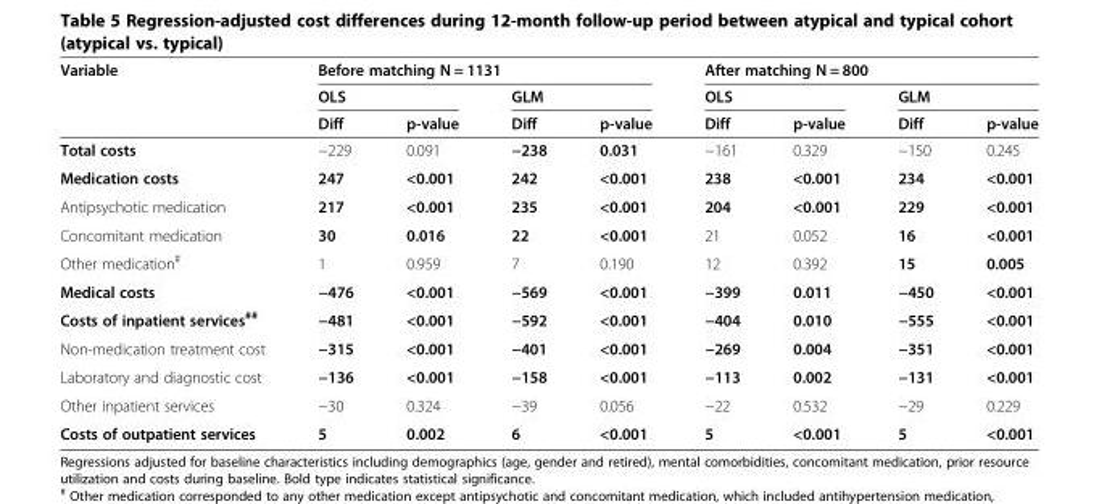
<table><thead><tr><td rowspan="3">Variable</td><td colspan="4">Before matching N = 1131</td><td colspan="4">After matching N = 800</td></tr><tr><td colspan="2">OLS</td><td colspan="2">GLM</td><td colspan="2">OLS</td><td colspan="2">GLM</td></tr><tr><td>Diff</td><td>p-value</td><td>Diff</td><td>p-value</td><td>Diff</td><td>p-value</td><td>Diff</td><td>p-value</td></tr></thead><tbody><tr><td>Total costs</td><td>−229</td><td>0.091</td><td>−238</td><td>0.031</td><td>−161</td><td>0.329</td><td>−150</td><td>0.245</td></tr><tr><td>Medication costs</td><td>247</td><td>&lt;0.001</td><td>242</td><td>&lt;0.001</td><td>238</td><td>&lt;0.001</td><td>234</td><td>&lt;0.001</td></tr><tr><td>Antipsychotic medication</td><td>217</td><td>&lt;0.001</td><td>235</td><td>&lt;0.001</td><td>204</td><td>&lt;0.001</td><td>229</td><td>&lt;0.001</td></tr><tr><td>Concomitant medication</td><td>30</td><td>0.016</td><td>22</td><td>&lt;0.001</td><td>21</td><td>0.052</td><td>16</td><td>&lt;0.001</td></tr><tr><td>Other medication<sup>#</sup></td><td>1</td><td>0.959</td><td>7</td><td>0.190</td><td>12</td><td>0.392</td><td>15</td><td>0.005</td></tr><tr><td>Medical costs</td><td>−476</td><td>&lt;0.001</td><td>−569</td><td>&lt;0.001</td><td>−399</td><td>0.011</td><td>−450</td><td>&lt;0.001</td></tr><tr><td>Costs of inpatient services<sup>##</sup></td><td>−481</td><td>&lt;0.001</td><td>−592</td><td>&lt;0.001</td><td>−404</td><td>0.010</td><td>−555</td><td>&lt;0.001</td></tr><tr><td>Non-medication treatment cost</td><td>−315</td><td>&lt;0.001</td><td>−401</td><td>&lt;0.001</td><td>−269</td><td>0.004</td><td>−351</td><td>&lt;0.001</td></tr><tr><td>Laboratory and diagnostic cost</td><td>−136</td><td>&lt;0.001</td><td>−158</td><td>&lt;0.001</td><td>−113</td><td>0.002</td><td>−131</td><td>&lt;0.001</td></tr><tr><td>Other inpatient services</td><td>−30</td><td>0.324</td><td>−39</td><td>0.056</td><td>−22</td><td>0.532</td><td>−29</td><td>0.229</td></tr><tr><td>Costs of outpatient services</td><td>5</td><td>0.002</td><td>6</td><td>&lt;0.001</td><td>5</td><td>&lt;0.001</td><td>5</td><td>&lt;0.001</td></tr></tbody></table>